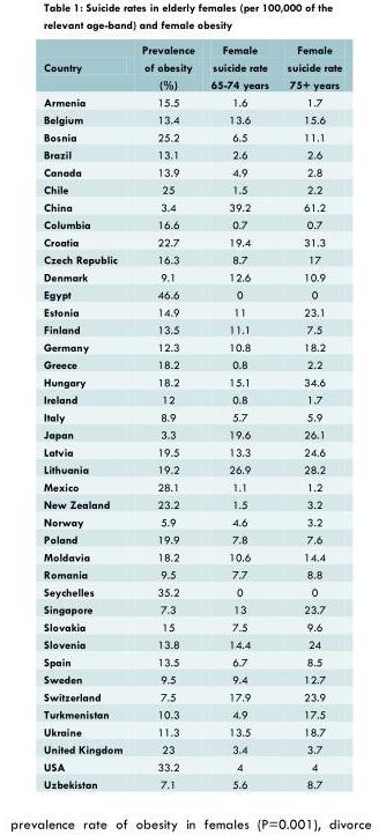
<table><thead><tr><td>Country</td><td>Prevalence of obesity (%)</td><td>Female suicide rate 65-74 years</td><td>Female suicide rate 75+ years</td></tr></thead><tbody><tr><td>Armenia</td><td>15.5</td><td>1.6</td><td>1.7</td></tr><tr><td>Belgium</td><td>13.4</td><td>13.6</td><td>15.6</td></tr><tr><td>Bosnia</td><td>25.2</td><td>6.5</td><td>11.1</td></tr><tr><td>Brazil</td><td>13.1</td><td>2.6</td><td>2.6</td></tr><tr><td>Canada</td><td>13.9</td><td>4.9</td><td>2.8</td></tr><tr><td>Chile</td><td>25</td><td>1.5</td><td>2.2</td></tr><tr><td>China</td><td>3.4</td><td>39.2</td><td>61.2</td></tr><tr><td>Columbia</td><td>16.6</td><td>0.7</td><td>0.7</td></tr><tr><td>Croatia</td><td>22.7</td><td>19.4</td><td>31.3</td></tr><tr><td>Czech Republic</td><td>16.3</td><td>8.7</td><td>17</td></tr><tr><td>Denmark</td><td>9.1</td><td>12.6</td><td>10.9</td></tr><tr><td>Egypt</td><td>46.6</td><td>0</td><td>0</td></tr><tr><td>Estonia</td><td>14.9</td><td>11</td><td>23.1</td></tr><tr><td>Finland</td><td>13.5</td><td>11.1</td><td>7.5</td></tr><tr><td>Germany</td><td>12.3</td><td>10.8</td><td>18.2</td></tr><tr><td>Greece</td><td>18.2</td><td>0.8</td><td>2.2</td></tr><tr><td>Hungary</td><td>18.2</td><td>15.1</td><td>34.6</td></tr><tr><td>Ireland</td><td>12</td><td>0.8</td><td>1.7</td></tr><tr><td>Italy</td><td>8.9</td><td>5.7</td><td>5.9</td></tr><tr><td>Japan</td><td>3.3</td><td>19.6</td><td>26.1</td></tr><tr><td>Latvia</td><td>19.5</td><td>13.3</td><td>24.6</td></tr><tr><td>Lithuania</td><td>19.2</td><td>26.9</td><td>28.2</td></tr><tr><td>Mexico</td><td>28.1</td><td>1.1</td><td>1.2</td></tr><tr><td>New Zealand</td><td>23.2</td><td>1.5</td><td>3.2</td></tr><tr><td>Norway</td><td>5.9</td><td>4.6</td><td>3.2</td></tr><tr><td>Poland</td><td>19.9</td><td>7.8</td><td>7.6</td></tr><tr><td>Moldavia</td><td>18.2</td><td>10.6</td><td>14.4</td></tr><tr><td>Romania</td><td>9.5</td><td>7.7</td><td>8.8</td></tr><tr><td>Seychelles</td><td>35.2</td><td>0</td><td>0</td></tr><tr><td>Singapore</td><td>7.3</td><td>13</td><td>23.7</td></tr><tr><td>Slovakia</td><td>15</td><td>7.5</td><td>9.6</td></tr><tr><td>Slovenia</td><td>13.8</td><td>14.4</td><td>24</td></tr><tr><td>Spain</td><td>13.5</td><td>6.7</td><td>8.5</td></tr><tr><td>Sweden</td><td>9.5</td><td>9.4</td><td>12.7</td></tr><tr><td>Switzerland</td><td>7.5</td><td>17.9</td><td>23.9</td></tr><tr><td>Turkmenistan</td><td>10.3</td><td>4.9</td><td>17.5</td></tr><tr><td>Ukraine</td><td>11.3</td><td>13.5</td><td>18.7</td></tr><tr><td>United Kingdom</td><td>23</td><td>3.4</td><td>3.7</td></tr><tr><td>USA</td><td>33.2</td><td>4</td><td>4</td></tr><tr><td>Uzbekistan</td><td>7.1</td><td>5.6</td><td>8.7</td></tr></tbody></table>